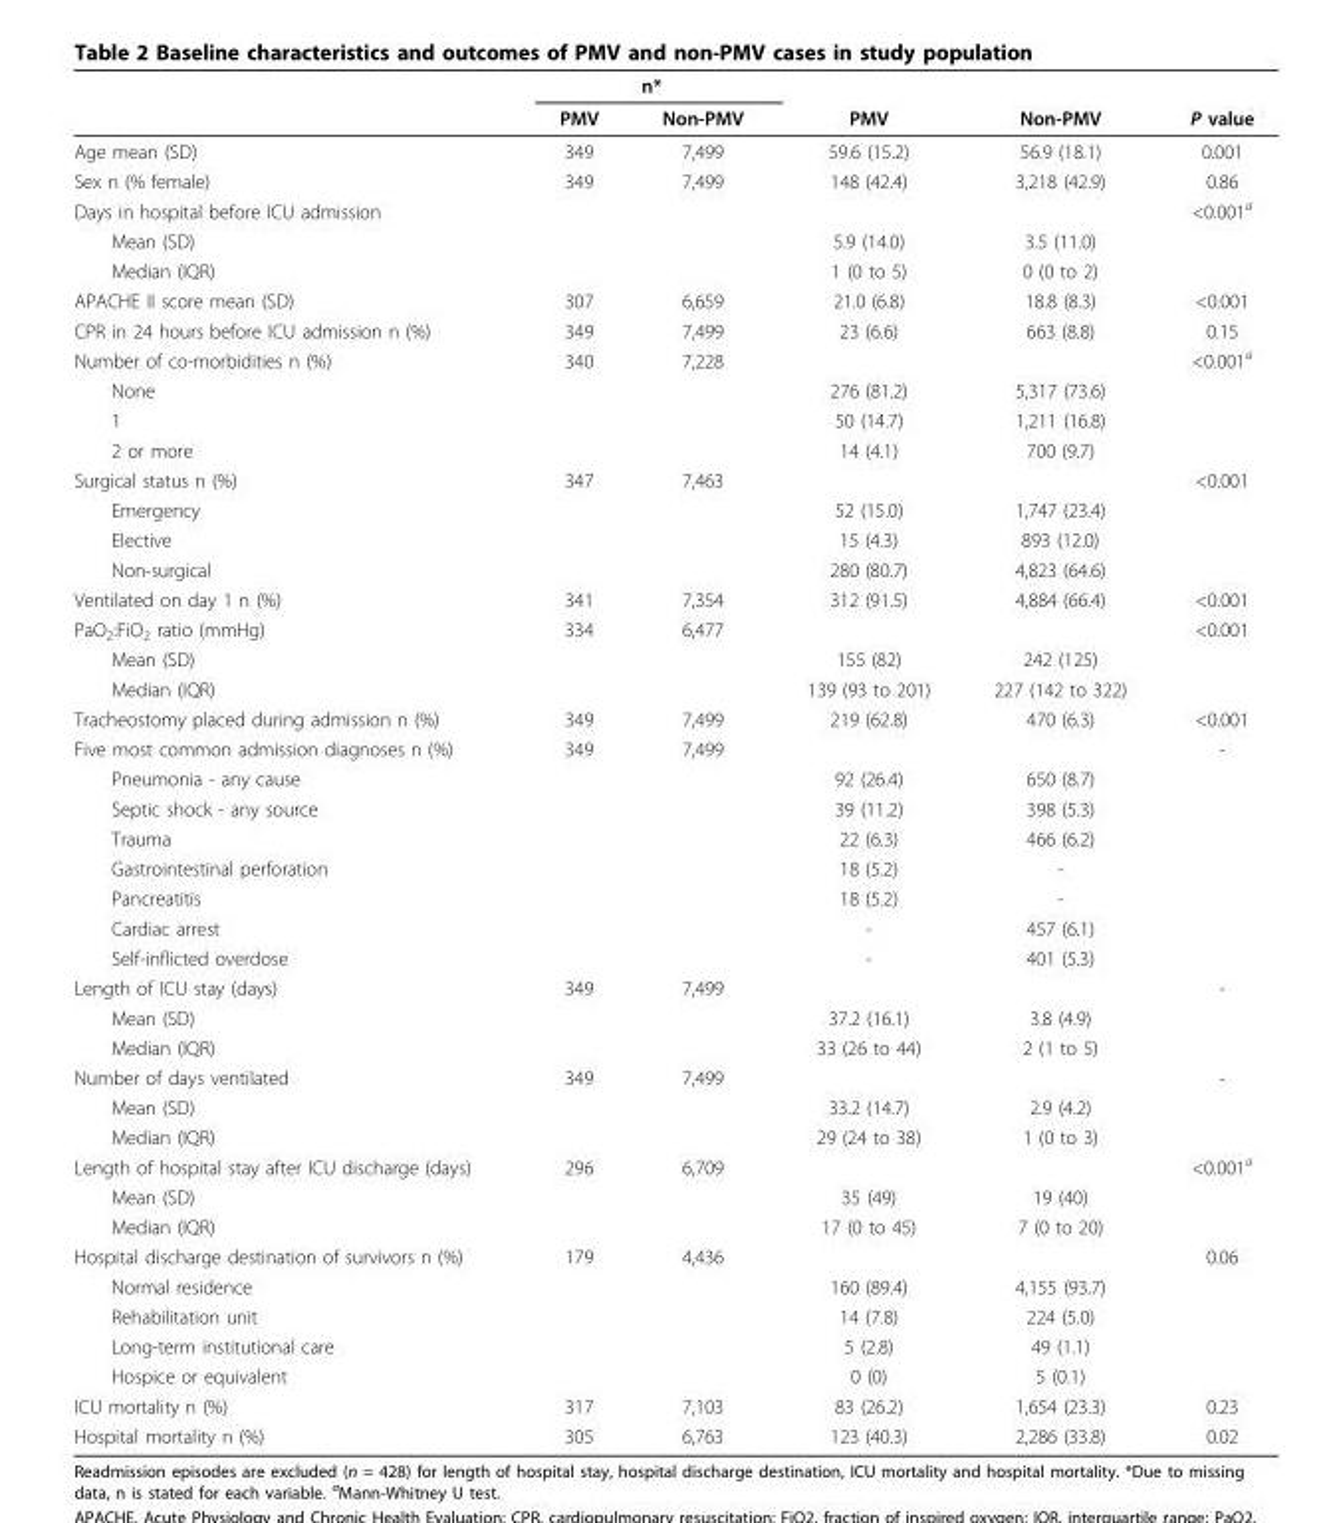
<table><thead><tr><td rowspan="2"></td><td colspan="2">n*</td><td rowspan="2">PMV</td><td rowspan="2">Non-PMV</td><td rowspan="2">P value</td></tr><tr><td>PMV</td><td>Non-PMV</td></tr></thead><tbody><tr><td>Age mean (SD)</td><td>349</td><td>7,499</td><td>59.6 (15.2)</td><td>56.9 (18.1)</td><td>0.001</td></tr><tr><td>Sex n (% female)</td><td>349</td><td>7,499</td><td>148 (42.4)</td><td>3,218 (42.9)</td><td>0.86</td></tr><tr><td>Days in hospital before ICU admission</td><td></td><td></td><td></td><td></td><td>&lt;0.001<sup>a</sup></td></tr><tr><td>Mean (SD)</td><td></td><td></td><td>5.9 (14.0)</td><td>3.5 (11.0)</td><td></td></tr><tr><td>Median (IQR)</td><td></td><td></td><td>1 (0 to 5)</td><td>0 (0 to 2)</td><td></td></tr><tr><td>APACHE II score mean (SD)</td><td>307</td><td>6,659</td><td>21.0 (6.8)</td><td>18.8 (8.3)</td><td>&lt;0.001</td></tr><tr><td>CPR in 24 hours before ICU admission n (%)</td><td>349</td><td>7,499</td><td>23 (6.6)</td><td>663 (8.8)</td><td>0.15</td></tr><tr><td>Number of co-morbidities n (%)</td><td>340</td><td>7,228</td><td></td><td></td><td>&lt;0.001<sup>a</sup></td></tr><tr><td>None</td><td></td><td></td><td>276 (81.2)</td><td>5,317 (73.6)</td><td></td></tr><tr><td>1</td><td></td><td></td><td>50 (14.7)</td><td>1,211 (16.8)</td><td></td></tr><tr><td>2 or more</td><td></td><td></td><td>14 (4.1)</td><td>700 (9.7)</td><td></td></tr><tr><td>Surgical status n (%)</td><td>347</td><td>7,463</td><td></td><td></td><td>&lt;0.001</td></tr><tr><td>Emergency</td><td></td><td></td><td>52 (15.0)</td><td>1,747 (23.4)</td><td></td></tr><tr><td>Elective</td><td></td><td></td><td>15 (4.3)</td><td>893 (12.0)</td><td></td></tr><tr><td>Non-surgical</td><td></td><td></td><td>280 (80.7)</td><td>4,823 (64.6)</td><td></td></tr><tr><td>Ventilated on day 1 n (%)</td><td>341</td><td>7,354</td><td>312 (91.5)</td><td>4,884 (66.4)</td><td>&lt;0.001</td></tr><tr><td>PaO<sub>2</sub>:FiO<sub>2</sub> ratio (mmHg)</td><td>334</td><td>6,477</td><td></td><td></td><td>&lt;0.001</td></tr><tr><td>Mean (SD)</td><td></td><td></td><td>155 (82)</td><td>242 (125)</td><td></td></tr><tr><td>Median (IQR)</td><td></td><td></td><td>139 (93 to 201)</td><td>227 (142 to 322)</td><td></td></tr><tr><td>Tracheostomy placed during admission n (%)</td><td>349</td><td>7,499</td><td>219 (62.8)</td><td>470 (6.3)</td><td>&lt;0.001</td></tr><tr><td>Five most common admission diagnoses n (%)</td><td>349</td><td>7,499</td><td></td><td></td><td>-</td></tr><tr><td>Pneumonia - any cause</td><td></td><td></td><td>92 (26.4)</td><td>650 (8.7)</td><td></td></tr><tr><td>Septic shock - any source</td><td></td><td></td><td>39 (11.2)</td><td>398 (5.3)</td><td></td></tr><tr><td>Trauma</td><td></td><td></td><td>22 (6.3)</td><td>466 (6.2)</td><td></td></tr><tr><td>Gastrointestinal perforation</td><td></td><td></td><td>18 (5.2)</td><td>-</td><td></td></tr><tr><td>Pancreatitis</td><td></td><td></td><td>18 (5.2)</td><td>-</td><td></td></tr><tr><td>Cardiac arrest</td><td></td><td></td><td>-</td><td>457 (6.1)</td><td></td></tr><tr><td>Self-inflicted overdose</td><td></td><td></td><td>-</td><td>401 (5.3)</td><td></td></tr><tr><td>Length of ICU stay (days)</td><td>349</td><td>7,499</td><td></td><td></td><td>-</td></tr><tr><td>Mean (SD)</td><td></td><td></td><td>37.2 (16.1)</td><td>3.8 (4.9)</td><td></td></tr><tr><td>Median (IQR)</td><td></td><td></td><td>33 (26 to 44)</td><td>2 (1 to 5)</td><td></td></tr><tr><td>Number of days ventilated</td><td>349</td><td>7,499</td><td></td><td></td><td>-</td></tr><tr><td>Mean (SD)</td><td></td><td></td><td>33.2 (14.7)</td><td>2.9 (4.2)</td><td></td></tr><tr><td>Median (IQR)</td><td></td><td></td><td>29 (24 to 38)</td><td>1 (0 to 3)</td><td></td></tr><tr><td>Length of hospital stay after ICU discharge (days)</td><td>296</td><td>6,709</td><td></td><td></td><td>&lt;0.001<sup>a</sup></td></tr><tr><td>Mean (SD)</td><td></td><td></td><td>35 (49)</td><td>19 (40)</td><td></td></tr><tr><td>Median (IQR)</td><td></td><td></td><td>17 (0 to 45)</td><td>7 (0 to 20)</td><td></td></tr><tr><td>Hospital discharge destination of survivors n (%)</td><td>179</td><td>4,436</td><td></td><td></td><td>0.06</td></tr><tr><td>Normal residence</td><td></td><td></td><td>160 (89.4)</td><td>4,155 (93.7)</td><td></td></tr><tr><td>Rehabilitation unit</td><td></td><td></td><td>14 (7.8)</td><td>224 (5.0)</td><td></td></tr><tr><td>Long-term institutional care</td><td></td><td></td><td>5 (2.8)</td><td>49 (1.1)</td><td></td></tr><tr><td>Hospice or equivalent</td><td></td><td></td><td>0 (0)</td><td>5 (0.1)</td><td></td></tr><tr><td>ICU mortality n (%)</td><td>317</td><td>7,103</td><td>83 (26.2)</td><td>1,654 (23.3)</td><td>0.23</td></tr><tr><td>Hospital mortality n (%)</td><td>305</td><td>6,763</td><td>123 (40.3)</td><td>2,286 (33.8)</td><td>0.02</td></tr></tbody></table>